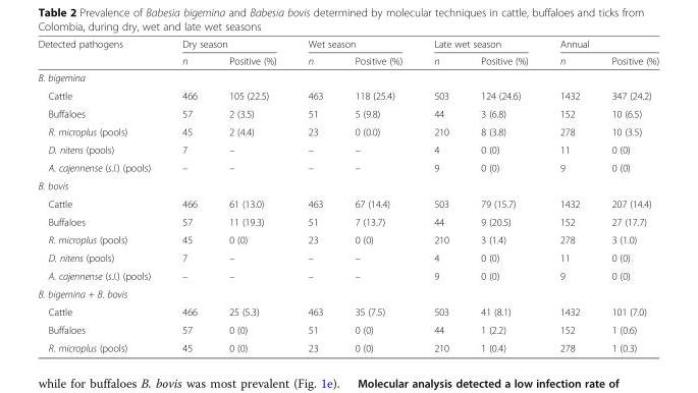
<table><thead><tr><td rowspan="2">Detected pathogens</td><td colspan="2">Dry season</td><td colspan="2">Wet season</td><td colspan="2">Late wet season</td><td colspan="2">Annual</td></tr><tr><td>n</td><td>Positive (%)</td><td>n</td><td>Positive (%)</td><td>n</td><td>Positive (%)</td><td>n</td><td>Positive (%)</td></tr></thead><tbody><tr><td colspan="9">B. bigemina</td></tr><tr><td>Cattle</td><td>466</td><td>105 (22.5)</td><td>463</td><td>118 (25.4)</td><td>503</td><td>124 (24.6)</td><td>1432</td><td>347 (24.2)</td></tr><tr><td>Buffaloes</td><td>57</td><td>2 (3.5)</td><td>51</td><td>5 (9.8)</td><td>44</td><td>3 (6.8)</td><td>152</td><td>10 (6.5)</td></tr><tr><td>R. microplus (pools)</td><td>45</td><td>2 (4.4)</td><td>23</td><td>0 (0.0)</td><td>210</td><td>8 (3.8)</td><td>278</td><td>10 (3.5)</td></tr><tr><td>D. nitens (pools)</td><td>7</td><td>–</td><td>–</td><td>–</td><td>4</td><td>0 (0)</td><td>11</td><td>0 (0)</td></tr><tr><td>A. cajennense (s.l.) (pools)</td><td>–</td><td>–</td><td>–</td><td>–</td><td>9</td><td>0 (0)</td><td>9</td><td>0 (0)</td></tr><tr><td colspan="9">B. bovis</td></tr><tr><td>Cattle</td><td>466</td><td>61 (13.0)</td><td>463</td><td>67 (14.4)</td><td>503</td><td>79 (15.7)</td><td>1432</td><td>207 (14.4)</td></tr><tr><td>Buffaloes</td><td>57</td><td>11 (19.3)</td><td>51</td><td>7 (13.7)</td><td>44</td><td>9 (20.5)</td><td>152</td><td>27 (17.7)</td></tr><tr><td>R. microplus (pools)</td><td>45</td><td>0 (0)</td><td>23</td><td>0 (0)</td><td>210</td><td>3 (1.4)</td><td>278</td><td>3 (1.0)</td></tr><tr><td>D. nitens (pools)</td><td>7</td><td>–</td><td>–</td><td>–</td><td>4</td><td>0 (0)</td><td>11</td><td>0 (0)</td></tr><tr><td>A. cajennense (s.l.) (pools)</td><td>–</td><td>–</td><td>–</td><td>–</td><td>9</td><td>0 (0)</td><td>9</td><td>0 (0)</td></tr><tr><td colspan="9">B. bigemina + B. bovis</td></tr><tr><td>Cattle</td><td>466</td><td>25 (5.3)</td><td>463</td><td>35 (7.5)</td><td>503</td><td>41 (8.1)</td><td>1432</td><td>101 (7.0)</td></tr><tr><td>Buffaloes</td><td>57</td><td>0 (0)</td><td>51</td><td>0 (0)</td><td>44</td><td>1 (2.2)</td><td>152</td><td>1 (0.6)</td></tr><tr><td>R. microplus (pools)</td><td>45</td><td>0 (0)</td><td>23</td><td>0 (0)</td><td>210</td><td>1 (0.4)</td><td>278</td><td>1 (0.3)</td></tr></tbody></table>